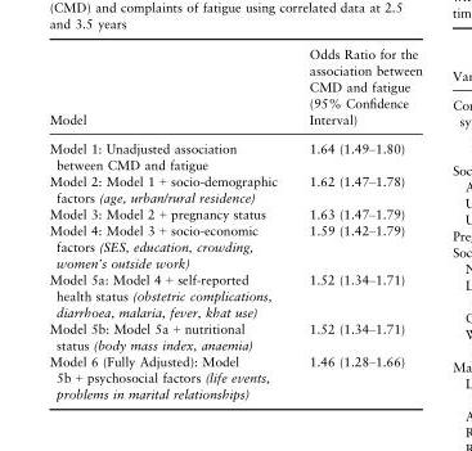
<table><thead><tr><td>Model</td><td>Odds Ratio for the association between CMD and fatigue (95% Confidence Interval)</td></tr></thead><tbody><tr><td>Model 1: Unadjusted association between CMD and fatigue</td><td>1.64 (1.49–1.80)</td></tr><tr><td>Model 2: Model 1 + socio-demographic factors (age, urban/rural residence)</td><td>1.62 (1.47–1.78)</td></tr><tr><td>Model 3: Model 2 + pregnancy status</td><td>1.63 (1.47–1.79)</td></tr><tr><td>Model 4: Model 3 + socio-economic factors (SES, education, crowding, women’s outside work)</td><td>1.59 (1.42–1.79)</td></tr><tr><td>Model 5a: Model 4 + self-reported health status (obstetric complications, diarrhoea, malaria, fever, khat use)</td><td>1.52 (1.34–1.71)</td></tr><tr><td>Model 5b: Model 5a + nutritional status (body mass index, anaemia)</td><td>1.52 (1.34–1.71)</td></tr><tr><td>Model 6 (Fully Adjusted): Model 5b + psychosocial factors (life events, problems in marital relationships)</td><td>1.46 (1.28–1.66)</td></tr></tbody></table>